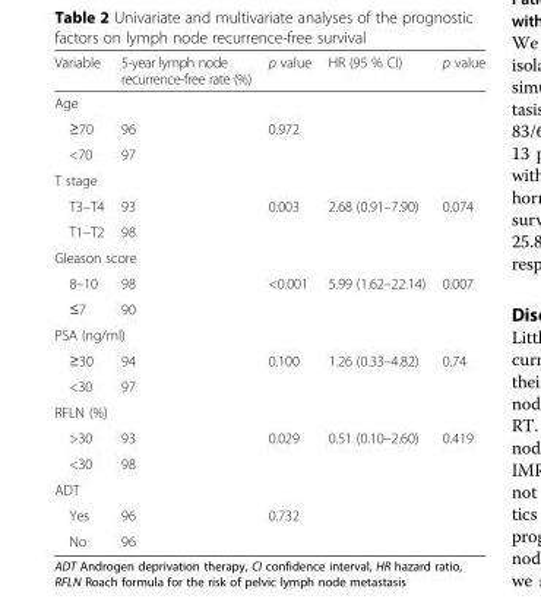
<table><thead><tr><td>Variable</td><td>5-year lymph node recurrence-free rate (%)</td><td>p value</td><td>HR (95 % CI)</td><td>p value</td></tr></thead><tbody><tr><td colspan="5">Age</td></tr><tr><td>≥70</td><td>96</td><td>0.972</td><td></td><td></td></tr><tr><td>&lt;70</td><td>97</td><td></td><td></td><td></td></tr><tr><td colspan="5">T stage</td></tr><tr><td>T3–T4</td><td>93</td><td>0.003</td><td>2.68 (0.91–7.90)</td><td>0.074</td></tr><tr><td>T1–T2</td><td>98</td><td></td><td></td><td></td></tr><tr><td colspan="5">Gleason score</td></tr><tr><td>8–10</td><td>98</td><td>&lt;0.001</td><td>5.99 (1.62–22.14)</td><td>0.007</td></tr><tr><td>≤7</td><td>90</td><td></td><td></td><td></td></tr><tr><td colspan="5">PSA (ng/ml)</td></tr><tr><td>≥30</td><td>94</td><td>0.100</td><td>1.26 (0.33–4.82)</td><td>0.74</td></tr><tr><td>&lt;30</td><td>97</td><td></td><td></td><td></td></tr><tr><td colspan="5">RFLN (%)</td></tr><tr><td>&gt;30</td><td>93</td><td>0.029</td><td>0.51 (0.10–2.60)</td><td>0.419</td></tr><tr><td>&lt;30</td><td>98</td><td></td><td></td><td></td></tr><tr><td colspan="5">ADT</td></tr><tr><td>Yes</td><td>96</td><td>0.732</td><td></td><td></td></tr><tr><td>No</td><td>96</td><td></td><td></td><td></td></tr></tbody></table>